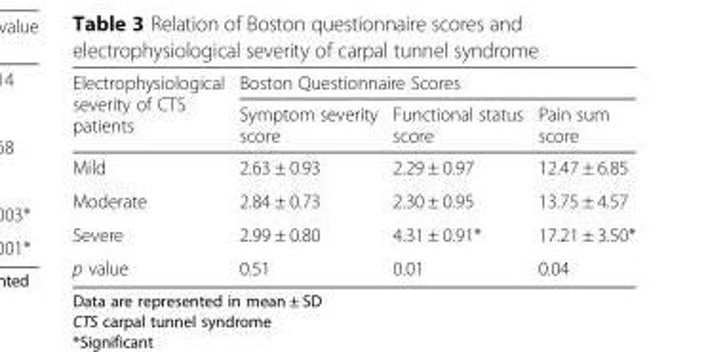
<table><thead><tr><td rowspan="2">Electrophysiological severity of CTS patients</td><td colspan="3">Boston Questionnaire Scores</td></tr><tr><td>Symptom severity score</td><td>Functional status score</td><td>Pain sum score</td></tr></thead><tbody><tr><td>Mild</td><td>2.63 ± 0.93</td><td>2.29 ± 0.97</td><td>12.47 ± 6.85</td></tr><tr><td>Moderate</td><td>2.84 ± 0.73</td><td>2.30 ± 0.95</td><td>13.75 ± 4.57</td></tr><tr><td>Severe</td><td>2.99 ± 0.80</td><td>4.31 ± 0.91*</td><td>17.21 ± 3.50*</td></tr><tr><td>p value</td><td>0.51</td><td>0.01</td><td>0.04</td></tr></tbody></table>